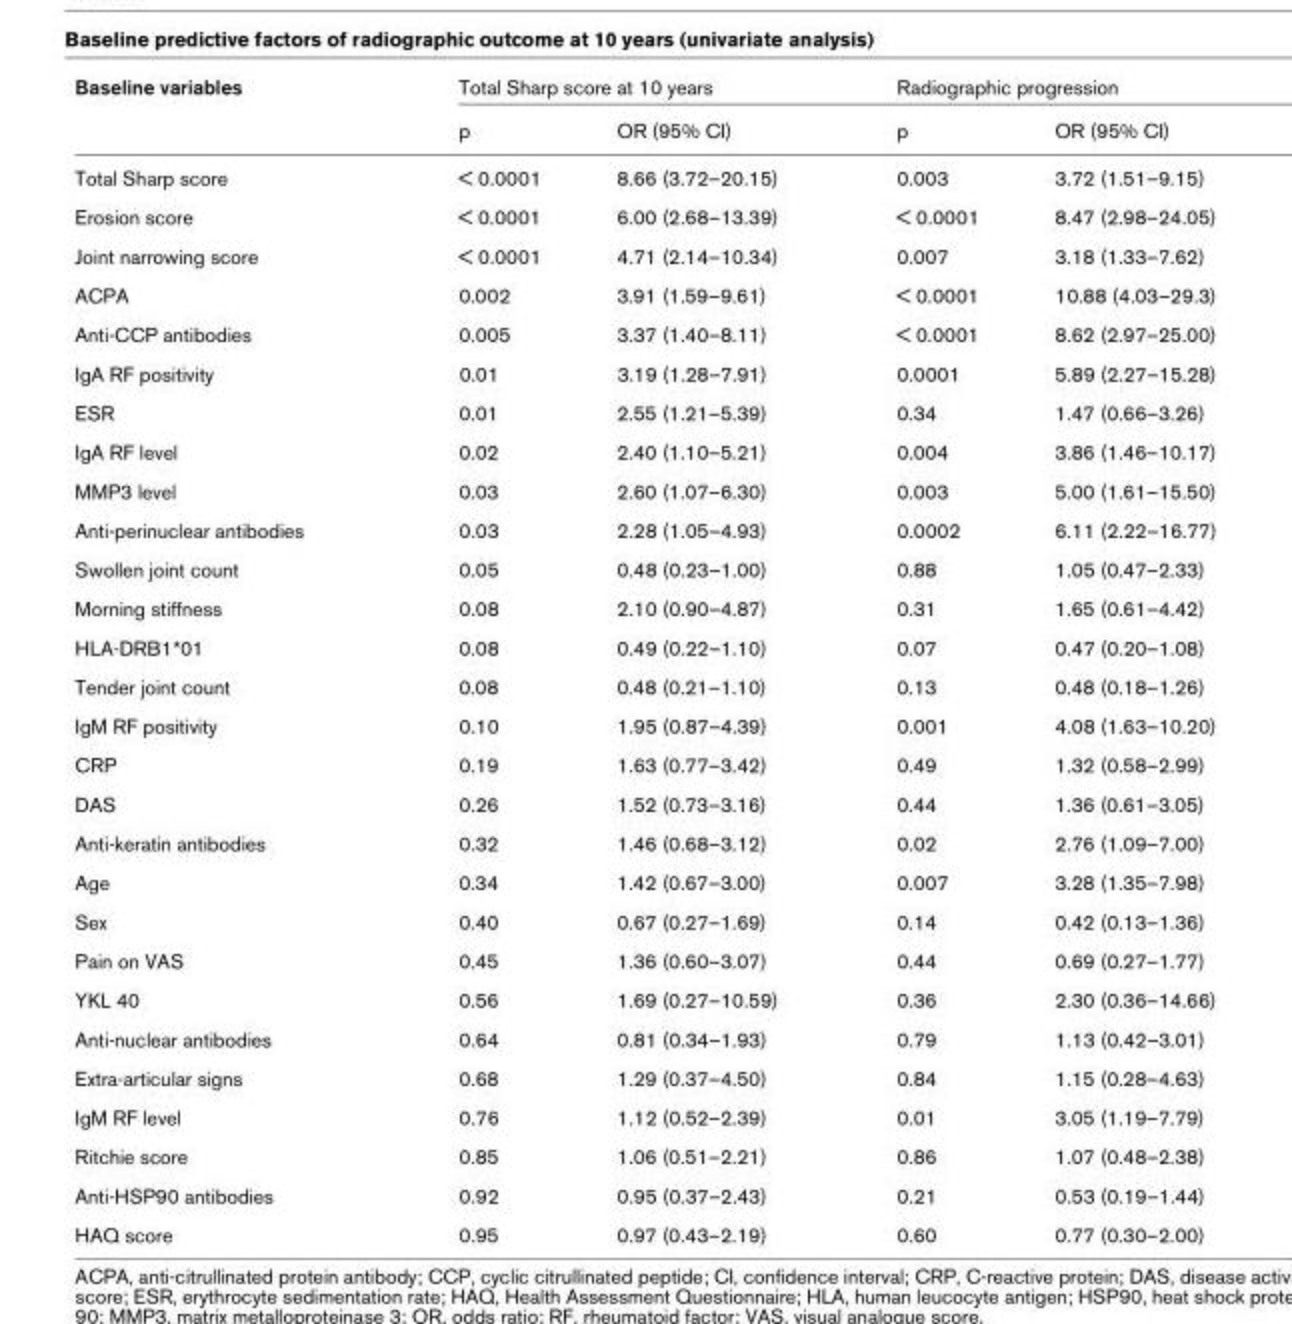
<table><thead><tr><td rowspan="2">Baseline variables</td><td colspan="2">Total Sharp score at 10 years</td><td colspan="2">Radiographic progression</td></tr><tr><td>p</td><td>OR (95% CI)</td><td>p</td><td>OR (95% CI)</td></tr></thead><tbody><tr><td>Total Sharp score</td><td>&lt; 0.0001</td><td>8.66 (3.72–20.15)</td><td>0.003</td><td>3.72 (1.51–9.15)</td></tr><tr><td>Erosion score</td><td>&lt; 0.0001</td><td>6.00 (2.68–13.39)</td><td>&lt; 0.0001</td><td>8.47 (2.98–24.05)</td></tr><tr><td>Joint narrowing score</td><td>&lt; 0.0001</td><td>4.71 (2.14–10.34)</td><td>0.007</td><td>3.18 (1.33–7.62)</td></tr><tr><td>ACPA</td><td>0.002</td><td>3.91 (1.59–9.61)</td><td>&lt; 0.0001</td><td>10.88 (4.03–29.3)</td></tr><tr><td>Anti-CCP antibodies</td><td>0.005</td><td>3.37 (1.40–8.11)</td><td>&lt; 0.0001</td><td>8.62 (2.97–25.00)</td></tr><tr><td>IgA RF positivity</td><td>0.01</td><td>3.19 (1.28–7.91)</td><td>0.0001</td><td>5.89 (2.27–15.28)</td></tr><tr><td>ESR</td><td>0.01</td><td>2.55 (1.21–5.39)</td><td>0.34</td><td>1.47 (0.66–3.26)</td></tr><tr><td>IgA RF level</td><td>0.02</td><td>2.40 (1.10–5.21)</td><td>0.004</td><td>3.86 (1.46–10.17)</td></tr><tr><td>MMP3 level</td><td>0.03</td><td>2.60 (1.07–6.30)</td><td>0.003</td><td>5.00 (1.61–15.50)</td></tr><tr><td>Anti-perinuclear antibodies</td><td>0.03</td><td>2.28 (1.05–4.93)</td><td>0.0002</td><td>6.11 (2.22–16.77)</td></tr><tr><td>Swollen joint count</td><td>0.05</td><td>0.48 (0.23–1.00)</td><td>0.88</td><td>1.05 (0.47–2.33)</td></tr><tr><td>Morning stiffness</td><td>0.08</td><td>2.10 (0.90–4.87)</td><td>0.31</td><td>1.65 (0.61–4.42)</td></tr><tr><td>HLA-DRB1*01</td><td>0.08</td><td>0.49 (0.22–1.10)</td><td>0.07</td><td>0.47 (0.20–1.08)</td></tr><tr><td>Tender joint count</td><td>0.08</td><td>0.48 (0.21–1.10)</td><td>0.13</td><td>0.48 (0.18–1.26)</td></tr><tr><td>IgM RF positivity</td><td>0.10</td><td>1.95 (0.87–4.39)</td><td>0.001</td><td>4.08 (1.63–10.20)</td></tr><tr><td>CRP</td><td>0.19</td><td>1.63 (0.77–3.42)</td><td>0.49</td><td>1.32 (0.58–2.99)</td></tr><tr><td>DAS</td><td>0.26</td><td>1.52 (0.73–3.16)</td><td>0.44</td><td>1.36 (0.61–3.05)</td></tr><tr><td>Anti-keratin antibodies</td><td>0.32</td><td>1.46 (0.68–3.12)</td><td>0.02</td><td>2.76 (1.09–7.00)</td></tr><tr><td>Age</td><td>0.34</td><td>1.42 (0.67–3.00)</td><td>0.007</td><td>3.28 (1.35–7.98)</td></tr><tr><td>Sex</td><td>0.40</td><td>0.67 (0.27–1.69)</td><td>0.14</td><td>0.42 (0.13–1.36)</td></tr><tr><td>Pain on VAS</td><td>0.45</td><td>1.36 (0.60–3.07)</td><td>0.44</td><td>0.69 (0.27–1.77)</td></tr><tr><td>YKL 40</td><td>0.56</td><td>1.69 (0.27–10.59)</td><td>0.36</td><td>2.30 (0.36–14.66)</td></tr><tr><td>Anti-nuclear antibodies</td><td>0.64</td><td>0.81 (0.34–1.93)</td><td>0.79</td><td>1.13 (0.42–3.01)</td></tr><tr><td>Extra-articular signs</td><td>0.68</td><td>1.29 (0.37–4.50)</td><td>0.84</td><td>1.15 (0.28–4.63)</td></tr><tr><td>IgM RF level</td><td>0.76</td><td>1.12 (0.52–2.39)</td><td>0.01</td><td>3.05 (1.19–7.79)</td></tr><tr><td>Ritchie score</td><td>0.85</td><td>1.06 (0.51–2.21)</td><td>0.86</td><td>1.07 (0.48–2.38)</td></tr><tr><td>Anti-HSP90 antibodies</td><td>0.92</td><td>0.95 (0.37–2.43)</td><td>0.21</td><td>0.53 (0.19–1.44)</td></tr><tr><td>HAQ score</td><td>0.95</td><td>0.97 (0.43–2.19)</td><td>0.60</td><td>0.77 (0.30–2.00)</td></tr></tbody></table>